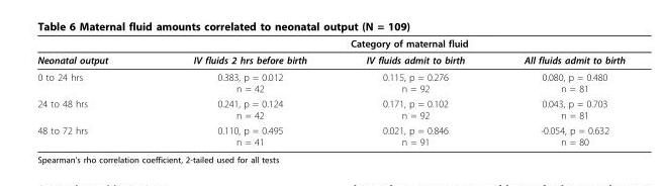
<table><thead><tr><td rowspan="2">Neonatal output</td><td colspan="3">Category of maternal fluid</td></tr><tr><td>IV fluids 2 hrs before birth</td><td>IV fluids admit to birth</td><td>All fluids admit to birth</td></tr></thead><tbody><tr><td>0 to 24 hrs</td><td>0.383, p = 0.012 n = 42</td><td>0.115, p = 0.276 n = 92</td><td>0.080, p = 0.480 n = 81</td></tr><tr><td>24 to 48 hrs</td><td>0.241, p = 0.124 n = 42</td><td>0.171, p = 0.102 n = 92</td><td>0.043, p = 0.703 n = 81</td></tr><tr><td>48 to 72 hrs</td><td>0.110, p = 0.495 n = 41</td><td>0.021, p = 0.846 n = 91</td><td>-0.054, p = 0.632 n = 80</td></tr></tbody></table>